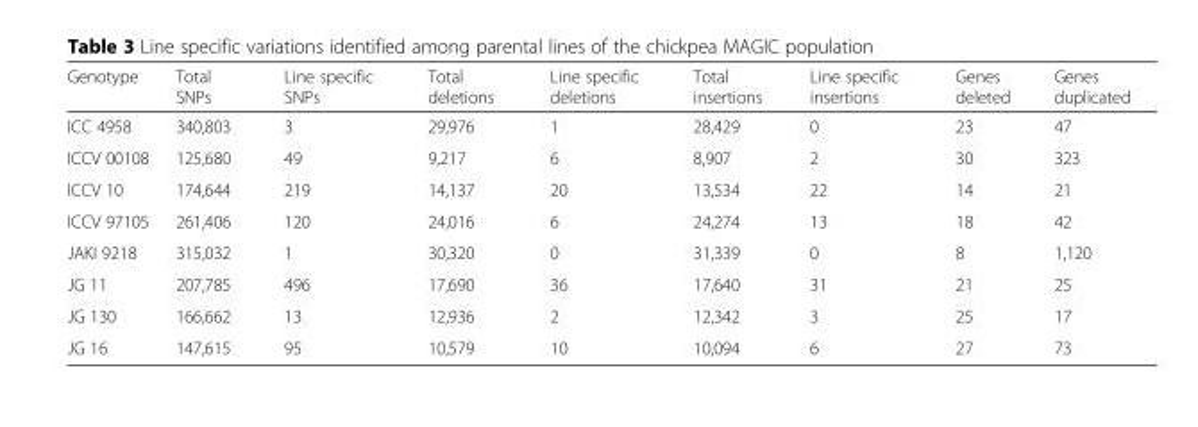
<table><thead><tr><td>Genotype</td><td>Total SNPs</td><td>Line specific SNPs</td><td>Total deletions</td><td>Line specific deletions</td><td>Total insertions</td><td>Line specific insertions</td><td>Genes deleted</td><td>Genes duplicated</td></tr></thead><tbody><tr><td>ICC 4958</td><td>340,803</td><td>3</td><td>29,976</td><td>1</td><td>28,429</td><td>0</td><td>23</td><td>47</td></tr><tr><td>ICCV 00108</td><td>125,680</td><td>49</td><td>9,217</td><td>6</td><td>8,907</td><td>2</td><td>30</td><td>323</td></tr><tr><td>ICCV 10</td><td>174,644</td><td>219</td><td>14,137</td><td>20</td><td>13,534</td><td>22</td><td>14</td><td>21</td></tr><tr><td>ICCV 97105</td><td>261,406</td><td>120</td><td>24,016</td><td>6</td><td>24,274</td><td>13</td><td>18</td><td>42</td></tr><tr><td>JAKI 9218</td><td>315,032</td><td>1</td><td>30,320</td><td>0</td><td>31,339</td><td>0</td><td>8</td><td>1,120</td></tr><tr><td>JG 11</td><td>207,785</td><td>496</td><td>17,690</td><td>36</td><td>17,640</td><td>31</td><td>21</td><td>25</td></tr><tr><td>JG 130</td><td>166,662</td><td>13</td><td>12,936</td><td>2</td><td>12,342</td><td>3</td><td>25</td><td>17</td></tr><tr><td>JG 16</td><td>147,615</td><td>95</td><td>10,579</td><td>10</td><td>10,094</td><td>6</td><td>27</td><td>73</td></tr></tbody></table>